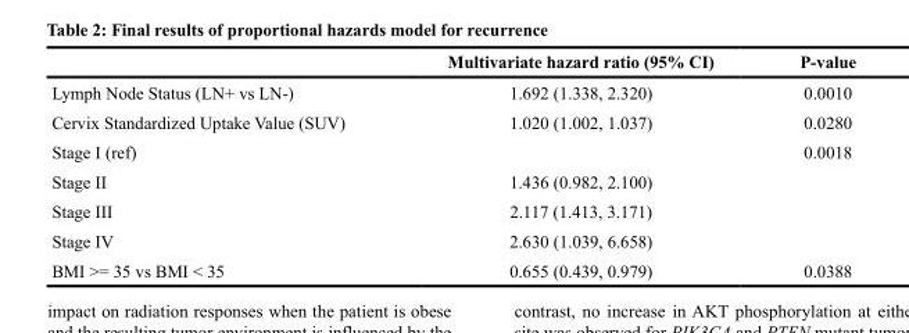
<table><thead><tr><td></td><td>Multivariate hazard ratio (95% CI)</td><td>P-value</td></tr></thead><tbody><tr><td>Lymph Node Status (LN+ vs LN-)</td><td>1.692 (1.338, 2.320)</td><td>0.0010</td></tr><tr><td>Cervix Standardized Uptake Value (SUV)</td><td>1.020 (1.002, 1.037)</td><td>0.0280</td></tr><tr><td>Stage I (ref)</td><td></td><td>0.0018</td></tr><tr><td>Stage II</td><td>1.436 (0.982, 2.100)</td><td></td></tr><tr><td>Stage III</td><td>2.117 (1.413, 3.171)</td><td></td></tr><tr><td>Stage IV</td><td>2.630 (1.039, 6.658)</td><td></td></tr><tr><td>BMI &gt;= 35 vs BMI &lt; 35</td><td>0.655 (0.439, 0.979)</td><td>0.0388</td></tr></tbody></table>